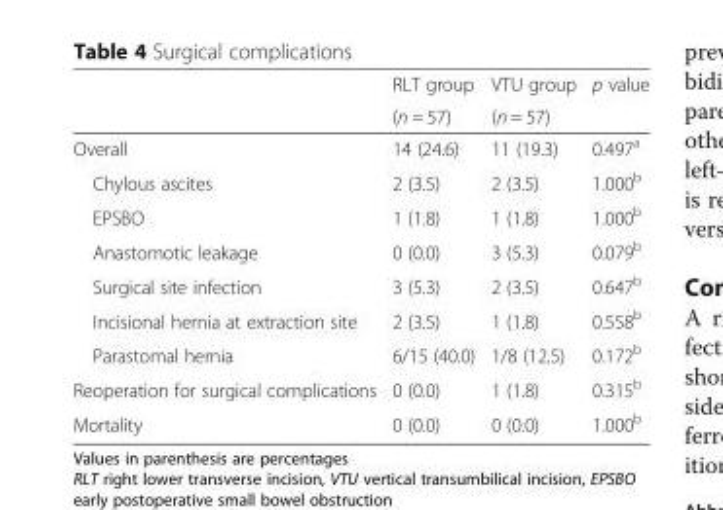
<table><thead><tr><td rowspan="2"></td><td rowspan="2">RLT group (n = 57)</td><td rowspan="2">VTU group (n = 57)</td><td rowspan="2">p value</td></tr><tr></tr></thead><tbody><tr><td>Overall</td><td>14 (24.6)</td><td>11 (19.3)</td><td>0.497<sup>a</sup></td></tr><tr><td>Chylous ascites</td><td>2 (3.5)</td><td>2 (3.5)</td><td>1.000<sup>b</sup></td></tr><tr><td>EPSBO</td><td>1 (1.8)</td><td>1 (1.8)</td><td>1.000<sup>b</sup></td></tr><tr><td>Anastomotic leakage</td><td>0 (0.0)</td><td>3 (5.3)</td><td>0.079<sup>b</sup></td></tr><tr><td>Surgical site infection</td><td>3 (5.3)</td><td>2 (3.5)</td><td>0.647<sup>b</sup></td></tr><tr><td>Incisional hernia at extraction site</td><td>2 (3.5)</td><td>1 (1.8)</td><td>0.558<sup>b</sup></td></tr><tr><td>Parastomal hernia</td><td>6/15 (40.0)</td><td>1/8 (12.5)</td><td>0.172<sup>b</sup></td></tr><tr><td>Reoperation for surgical complications</td><td>0 (0.0)</td><td>1 (1.8)</td><td>0.315<sup>b</sup></td></tr><tr><td>Mortality</td><td>0 (0.0)</td><td>0 (0.0)</td><td>1.000<sup>b</sup></td></tr></tbody></table>